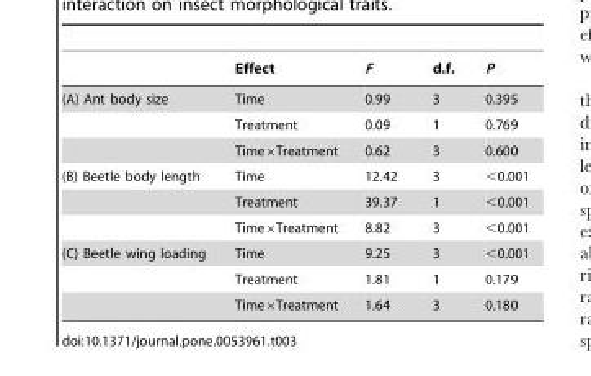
<table><thead><tr><td></td><td>Effect</td><td>F</td><td>d.f.</td><td>P</td></tr></thead><tbody><tr><td rowspan="3">(A) Ant body size</td><td>Time</td><td>0.99</td><td>3</td><td>0.395</td></tr><tr><td>Treatment</td><td>0.09</td><td>1</td><td>0.769</td></tr><tr><td>Time×Treatment</td><td>0.62</td><td>3</td><td>0.600</td></tr><tr><td rowspan="3">(B) Beetle body length</td><td>Time</td><td>12.42</td><td>3</td><td>&lt;0.001</td></tr><tr><td>Treatment</td><td>39.37</td><td>1</td><td>&lt;0.001</td></tr><tr><td>Time×Treatment</td><td>8.82</td><td>3</td><td>&lt;0.001</td></tr><tr><td rowspan="3">(C) Beetle wing loading</td><td>Time</td><td>9.25</td><td>3</td><td>&lt;0.001</td></tr><tr><td>Treatment</td><td>1.81</td><td>1</td><td>0.179</td></tr><tr><td>Time×Treatment</td><td>1.64</td><td>3</td><td>0.180</td></tr></tbody></table>